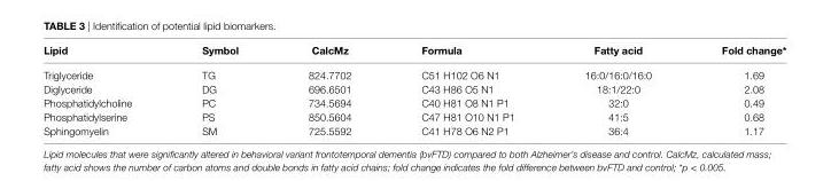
<table><thead><tr><td>lipid</td><td>symbol</td><td>calcMz</td><td>Formula</td><td>Fatty acid</td><td>Fold change*</td></tr></thead><tbody><tr><td>Triglyceride</td><td>TG</td><td>824.7702</td><td>C51 H102 O6 N1</td><td>16:0/16:0/16:0</td><td>1.69</td></tr><tr><td>Diglyceride</td><td>DG</td><td>696.6501</td><td>C43 H86 O5 N1</td><td>18:1/22:0</td><td>2.08</td></tr><tr><td>Phosphatidylcholine</td><td>PC</td><td>734.5694</td><td>C40 H81 O8 N1 P1</td><td>32:0</td><td>0.49</td></tr><tr><td>Phosphatidylserine</td><td>PS</td><td>850.5604</td><td>C47 H81 O10 N1 P1</td><td>41:5</td><td>0.68</td></tr><tr><td>Sphingomyelin</td><td>SM</td><td>725.5592</td><td>C41 H78 O6 N2 P1</td><td>36:4</td><td>1.17</td></tr></tbody></table>